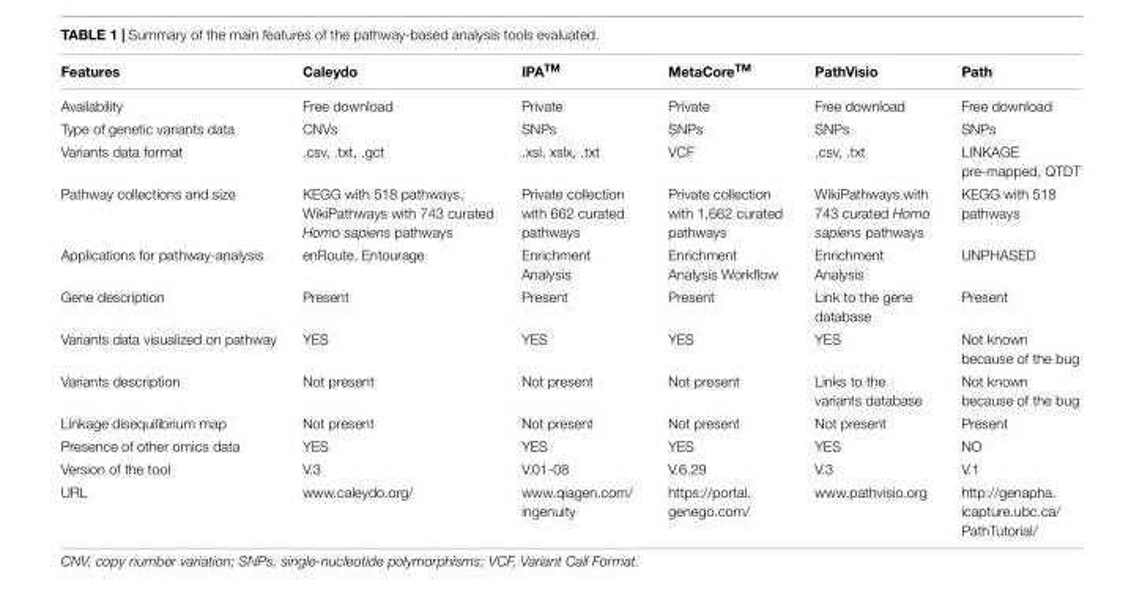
<table><thead><tr><td>Features</td><td>Caleydo</td><td>IPA<sup>TM</sup></td><td>MetaCore<sup>TM</sup></td><td>PathVisio</td><td>Path</td></tr></thead><tbody><tr><td>Availability</td><td>Free download</td><td>Private</td><td>Private</td><td>Free download</td><td>Free download</td></tr><tr><td>Type of genetic variants data</td><td>CNVs</td><td>SNPs</td><td>SNPs</td><td>SNPs</td><td>SNPs</td></tr><tr><td>Variants data format</td><td>.csv, .txt, .gct</td><td>.xsl, xslx, .txt</td><td>VCF</td><td>.csv, .txt</td><td>LINKAGE pre-mapped, QTDT</td></tr><tr><td>Pathway collections and size</td><td>KEGG with 518 pathways, WikiPathways with 743 curated Homo sapiens pathways</td><td>Private collection with 662 curated pathways</td><td>Private collection with 1,662 curated pathways</td><td>WikiPathways with 743 curated Homo sapiens pathways</td><td>KEGG with 518 pathways</td></tr><tr><td>Applications for pathway-analysis</td><td>enRoute, Entourage</td><td>Enrichment Analysis</td><td>Enrichment Analysis Workflow</td><td>Enrichment Analysis</td><td>UNPHASED</td></tr><tr><td>Gene description</td><td>Present</td><td>Present</td><td>Present</td><td>Link to the gene database</td><td>Present</td></tr><tr><td>Variants data visualized on pathway</td><td>YES</td><td>YES</td><td>YES</td><td>YES</td><td>Not known because of the bug</td></tr><tr><td>Variants description</td><td>Not present</td><td>Not present</td><td>Not present</td><td>Links to the variants database</td><td>Not known because of the bug</td></tr><tr><td>Linkage disequilibrium map</td><td>Not present</td><td>Not present</td><td>Not present</td><td>Not present</td><td>Present</td></tr><tr><td>Presence of other omics data</td><td>YES</td><td>YES</td><td>YES</td><td>YES</td><td>NO</td></tr><tr><td>Version of the tool</td><td>V.3</td><td>V.01-08</td><td>V.6.29</td><td>V.3</td><td>V.1</td></tr><tr><td>URL</td><td>www.caleydo.org/</td><td>www.qiagen.com/ ingenuity</td><td>https://portal. genego.com/</td><td>www.pathvisio.org</td><td>http://genapha. icapture.ubc.ca/ PathTutorial/</td></tr></tbody></table>